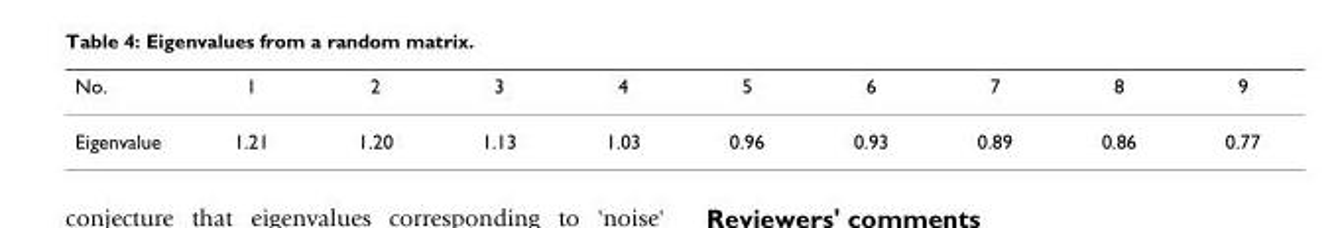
<table><thead><tr><td>No.</td><td>1</td><td>2</td><td>3</td><td>4</td><td>5</td><td>6</td><td>7</td><td>8</td><td>9</td></tr></thead><tbody><tr><td>Eigenvalue</td><td>1.21</td><td>1.20</td><td>1.13</td><td>1.03</td><td>0.96</td><td>0.93</td><td>0.89</td><td>0.86</td><td>0.77</td></tr></tbody></table>